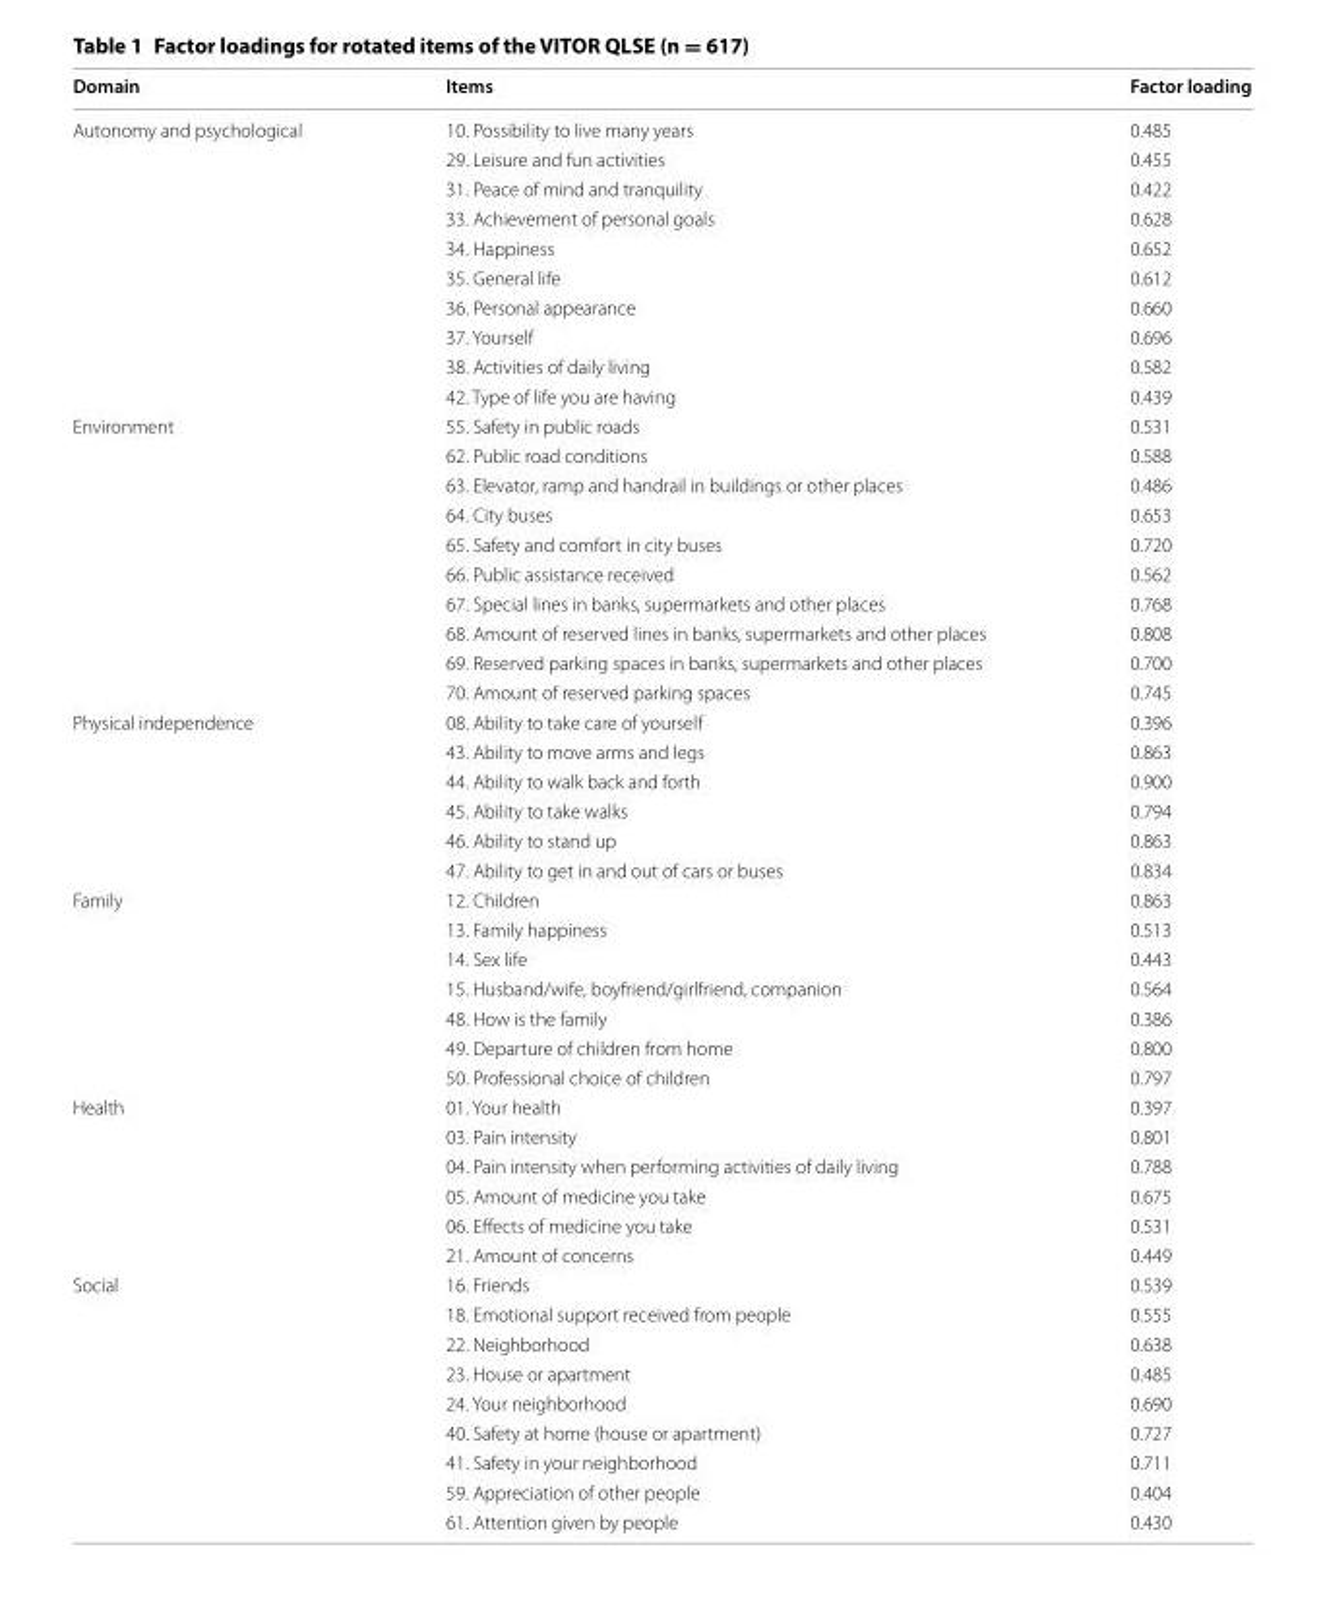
<table><thead><tr><td>Domain</td><td>Items</td><td>Factor loading</td></tr></thead><tbody><tr><td rowspan="10">Autonomy and psychological</td><td>10. Possibility to live many years</td><td>0.485</td></tr><tr><td>29. Leisure and fun activities</td><td>0.455</td></tr><tr><td>31. Peace of mind and tranquility</td><td>0.422</td></tr><tr><td>33. Achievement of personal goals</td><td>0.628</td></tr><tr><td>34. Happiness</td><td>0.652</td></tr><tr><td>35. General life</td><td>0.612</td></tr><tr><td>36. Personal appearance</td><td>0.660</td></tr><tr><td>37. Yourself</td><td>0.696</td></tr><tr><td>38. Activities of daily living</td><td>0.582</td></tr><tr><td>42. Type of life you are having</td><td>0.439</td></tr><tr><td rowspan="10">Environment</td><td>55. Safety in public roads</td><td>0.531</td></tr><tr><td>62. Public road conditions</td><td>0.588</td></tr><tr><td>63. Elevator, ramp and handrail in buildings or other places</td><td>0.486</td></tr><tr><td>64. City buses</td><td>0.653</td></tr><tr><td>65. Safety and comfort in city buses</td><td>0.720</td></tr><tr><td>66. Public assistance received</td><td>0.562</td></tr><tr><td>67. Special lines in banks, supermarkets and other places</td><td>0.768</td></tr><tr><td>68. Amount of reserved lines in banks, supermarkets and other places</td><td>0.808</td></tr><tr><td>69. Reserved parking spaces in banks, supermarkets and other places</td><td>0.700</td></tr><tr><td>70. Amount of reserved parking spaces</td><td>0.745</td></tr><tr><td rowspan="6">Physical independence</td><td>08. Ability to take care of yourself</td><td>0.396</td></tr><tr><td>43. Ability to move arms and legs</td><td>0.863</td></tr><tr><td>44. Ability to walk back and forth</td><td>0.900</td></tr><tr><td>45. Ability to take walks</td><td>0.794</td></tr><tr><td>46. Ability to stand up</td><td>0.863</td></tr><tr><td>47. Ability to get in and out of cars or buses</td><td>0.834</td></tr><tr><td rowspan="7">Family</td><td>12. Children</td><td>0.863</td></tr><tr><td>13. Family happiness</td><td>0.513</td></tr><tr><td>14. Sex life</td><td>0.443</td></tr><tr><td>15. Husband/wife, boyfriend/girlfriend, companion</td><td>0.564</td></tr><tr><td>48. How is the family</td><td>0.386</td></tr><tr><td>49. Departure of children from home</td><td>0.800</td></tr><tr><td>50. Professional choice of children</td><td>0.797</td></tr><tr><td rowspan="6">Health</td><td>01. Your health</td><td>0.397</td></tr><tr><td>03. Pain intensity</td><td>0.801</td></tr><tr><td>04. Pain intensity when performing activities of daily living</td><td>0.788</td></tr><tr><td>05. Amount of medicine you take</td><td>0.675</td></tr><tr><td>06. Effects of medicine you take</td><td>0.531</td></tr><tr><td>21. Amount of concerns</td><td>0.449</td></tr><tr><td rowspan="9">Social</td><td>16. Friends</td><td>0.539</td></tr><tr><td>18. Emotional support received from people</td><td>0.555</td></tr><tr><td>22. Neighborhood</td><td>0.638</td></tr><tr><td>23. House or apartment</td><td>0.485</td></tr><tr><td>24. Your neighborhood</td><td>0.690</td></tr><tr><td>40. Safety at home (house or apartment)</td><td>0.727</td></tr><tr><td>41. Safety in your neighborhood</td><td>0.711</td></tr><tr><td>59. Appreciation of other people</td><td>0.404</td></tr><tr><td>61. Attention given by people</td><td>0.430</td></tr></tbody></table>